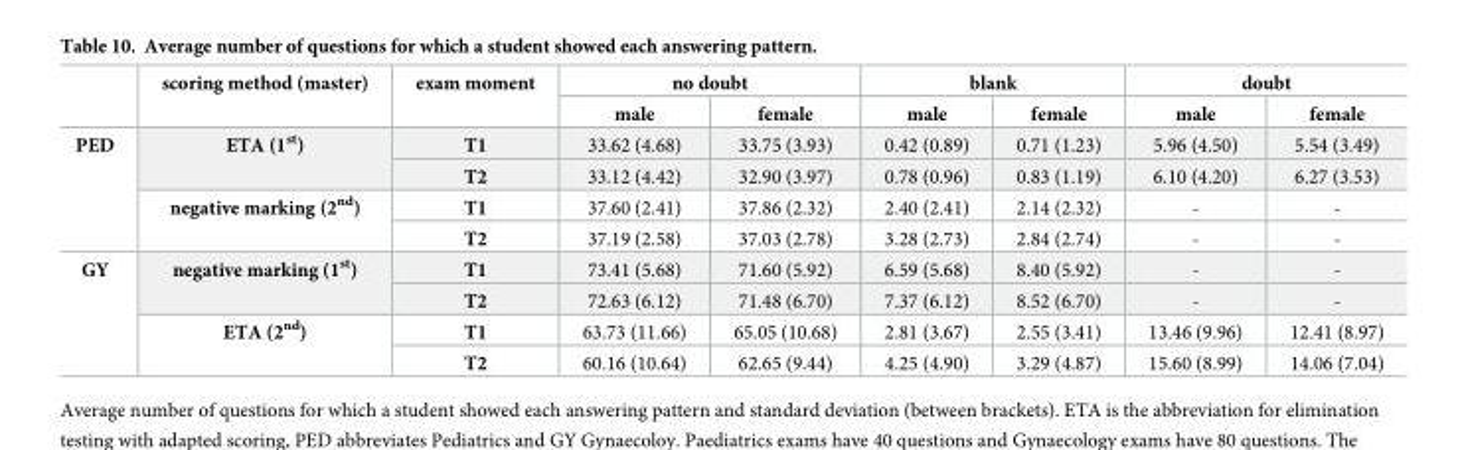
<table><thead><tr><td rowspan="2"></td><td rowspan="2">scoring method (master)</td><td rowspan="2">exam moment</td><td colspan="2">no doubt</td><td colspan="2">blank</td><td colspan="2">doubt</td></tr><tr><td>male</td><td>female</td><td>male</td><td>female</td><td>male</td><td>female</td></tr></thead><tbody><tr><td rowspan="4">PED</td><td rowspan="2">ETA (1<sup>st</sup>)</td><td>T1</td><td>33.62 (4.68)</td><td>33.75 (3.93)</td><td>0.42 (0.89)</td><td>0.71 (1.23)</td><td>5.96 (4.50)</td><td>5.54 (3.49)</td></tr><tr><td>T2</td><td>33.12 (4.42)</td><td>32.90 (3.97)</td><td>0.78 (0.96)</td><td>0.83 (1.19)</td><td>6.10 (4.20)</td><td>6.27 (3.53)</td></tr><tr><td rowspan="2">negative marking (2<sup>nd</sup>)</td><td>T1</td><td>37.60 (2.41)</td><td>37.86 (2.32)</td><td>2.40 (2.41)</td><td>2.14 (2.32)</td><td>-</td><td>-</td></tr><tr><td>T2</td><td>37.19 (2.58)</td><td>37.03 (2.78)</td><td>3.28 (2.73)</td><td>2.84 (2.74)</td><td>-</td><td>-</td></tr><tr><td rowspan="4">GY</td><td rowspan="2">negative marking (1<sup>st</sup>)</td><td>T1</td><td>73.41 (5.68)</td><td>71.60 (5.92)</td><td>6.59 (5.68)</td><td>8.40 (5.92)</td><td>-</td><td>-</td></tr><tr><td>T2</td><td>72.63 (6.12)</td><td>71.48 (6.70)</td><td>7.37 (6.12)</td><td>8.52 (6.70)</td><td>-</td><td>-</td></tr><tr><td rowspan="2">ETA (2<sup>nd</sup>)</td><td>T1</td><td>63.73 (11.66)</td><td>65.05 (10.68)</td><td>2.81 (3.67)</td><td>2.55 (3.41)</td><td>13.46 (9.96)</td><td>12.41 (8.97)</td></tr><tr><td>T2</td><td>60.16 (10.64)</td><td>62.65 (9.44)</td><td>4.25 (4.90)</td><td>3.29 (4.87)</td><td>15.60 (8.99)</td><td>14.06 (7.04)</td></tr></tbody></table>